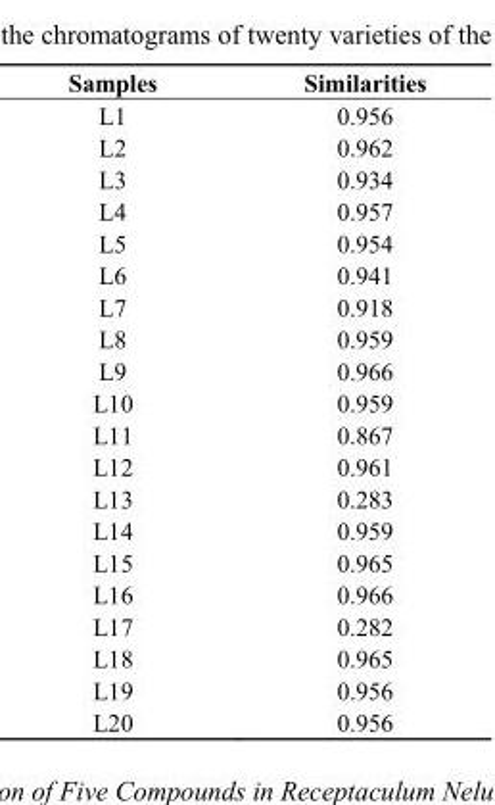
<table><thead><tr><td>Samples</td><td>Similarities</td></tr></thead><tbody><tr><td>L1</td><td>0.956</td></tr><tr><td>L2</td><td>0.962</td></tr><tr><td>L3</td><td>0.934</td></tr><tr><td>L4</td><td>0.957</td></tr><tr><td>L5</td><td>0.954</td></tr><tr><td>L6</td><td>0.941</td></tr><tr><td>L7</td><td>0.918</td></tr><tr><td>L8</td><td>0.959</td></tr><tr><td>L9</td><td>0.966</td></tr><tr><td>L10</td><td>0.959</td></tr><tr><td>L11</td><td>0.867</td></tr><tr><td>L12</td><td>0.961</td></tr><tr><td>L13</td><td>0.283</td></tr><tr><td>L14</td><td>0.959</td></tr><tr><td>L15</td><td>0.965</td></tr><tr><td>L16</td><td>0.966</td></tr><tr><td>L17</td><td>0.282</td></tr><tr><td>L18</td><td>0.965</td></tr><tr><td>L19</td><td>0.956</td></tr><tr><td>L20</td><td>0.956</td></tr></tbody></table>